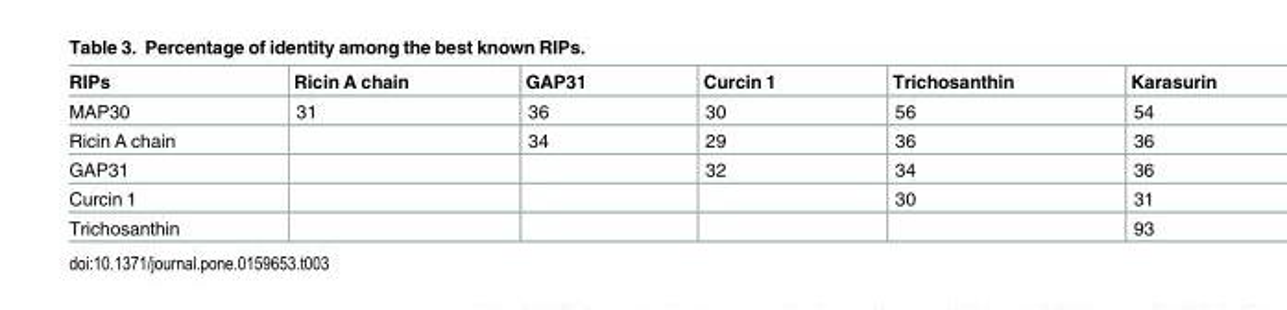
<table><thead><tr><td>RIPs</td><td>Ricin A chain</td><td>GAP31</td><td>Curcin 1</td><td>Trichosanthin</td><td>Karasurin</td></tr></thead><tbody><tr><td>MAP30</td><td>31</td><td>36</td><td>30</td><td>56</td><td>54</td></tr><tr><td>Ricin A chain</td><td></td><td>34</td><td>29</td><td>36</td><td>36</td></tr><tr><td>GAP31</td><td></td><td></td><td>32</td><td>34</td><td>36</td></tr><tr><td>Curcin 1</td><td></td><td></td><td></td><td>30</td><td>31</td></tr><tr><td>Trichosanthin</td><td></td><td></td><td></td><td></td><td>93</td></tr></tbody></table>